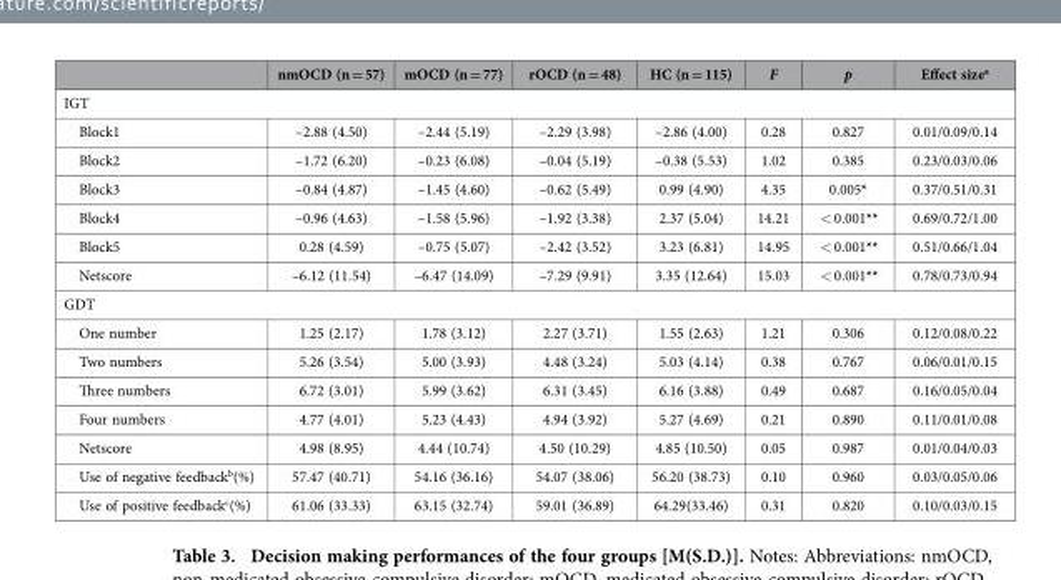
<table><thead><tr><td></td><td>nmOCD (n = 57)</td><td>mOCD (n = 77)</td><td>rOCD (n = 48)</td><td>HC (n = 115)</td><td>F</td><td>p</td><td>Effect size<sup>a</sup></td></tr></thead><tbody><tr><td colspan="8">IGT</td></tr><tr><td>Block1</td><td>–2.88 (4.50)</td><td>–2.44 (5.19)</td><td>–2.29 (3.98)</td><td>–2.86 (4.00)</td><td>0.28</td><td>0.827</td><td>0.01/0.09/0.14</td></tr><tr><td>Block2</td><td>–1.72 (6.20)</td><td>–0.23 (6.08)</td><td>–0.04 (5.19)</td><td>–0.38 (5.53)</td><td>1.02</td><td>0.385</td><td>0.23/0.03/0.06</td></tr><tr><td>Block3</td><td>–0.84 (4.87)</td><td>–1.45 (4.60)</td><td>–0.62 (5.49)</td><td>0.99 (4.90)</td><td>4.35</td><td>0.005*</td><td>0.37/0.51/0.31</td></tr><tr><td>Block4</td><td>–0.96 (4.63)</td><td>–1.58 (5.96)</td><td>–1.92 (3.38)</td><td>2.37 (5.04)</td><td>14.21</td><td>&lt; 0.001**</td><td>0.69/0.72/1.00</td></tr><tr><td>Block5</td><td>0.28 (4.59)</td><td>–0.75 (5.07)</td><td>–2.42 (3.52)</td><td>3.23 (6.81)</td><td>14.95</td><td>&lt; 0.001**</td><td>0.51/0.66/1.04</td></tr><tr><td>Netscore</td><td>–6.12 (11.54)</td><td>–6.47 (14.09)</td><td>–7.29 (9.91)</td><td>3.35 (12.64)</td><td>15.03</td><td>&lt; 0.001**</td><td>0.78/0.73/0.94</td></tr><tr><td colspan="8">GDT</td></tr><tr><td>One number</td><td>1.25 (2.17)</td><td>1.78 (3.12)</td><td>2.27 (3.71)</td><td>1.55 (2.63)</td><td>1.21</td><td>0.306</td><td>0.12/0.08/0.22</td></tr><tr><td>Two numbers</td><td>5.26 (3.54)</td><td>5.00 (3.93)</td><td>4.48 (3.24)</td><td>5.03 (4.14)</td><td>0.38</td><td>0.767</td><td>0.06/0.01/0.15</td></tr><tr><td>Three numbers</td><td>6.72 (3.01)</td><td>5.99 (3.62)</td><td>6.31 (3.45)</td><td>6.16 (3.88)</td><td>0.49</td><td>0.687</td><td>0.16/0.05/0.04</td></tr><tr><td>Four numbers</td><td>4.77 (4.01)</td><td>5.23 (4.43)</td><td>4.94 (3.92)</td><td>5.27 (4.69)</td><td>0.21</td><td>0.890</td><td>0.11/0.01/0.08</td></tr><tr><td>Netscore</td><td>4.98 (8.95)</td><td>4.44 (10.74)</td><td>4.50 (10.29)</td><td>4.85 (10.50)</td><td>0.05</td><td>0.987</td><td>0.01/0.04/0.03</td></tr><tr><td>Use of negative feedback<sup>b</sup>(%)</td><td>57.47 (40.71)</td><td>54.16 (36.16)</td><td>54.07 (38.06)</td><td>56.20 (38.73)</td><td>0.10</td><td>0.960</td><td>0.03/0.05/0.06</td></tr><tr><td>Use of positive feedback<sup>c</sup>(%)</td><td>61.06 (33.33)</td><td>63.15 (32.74)</td><td>59.01 (36.89)</td><td>64.29(33.46)</td><td>0.31</td><td>0.820</td><td>0.10/0.03/0.15</td></tr></tbody></table>